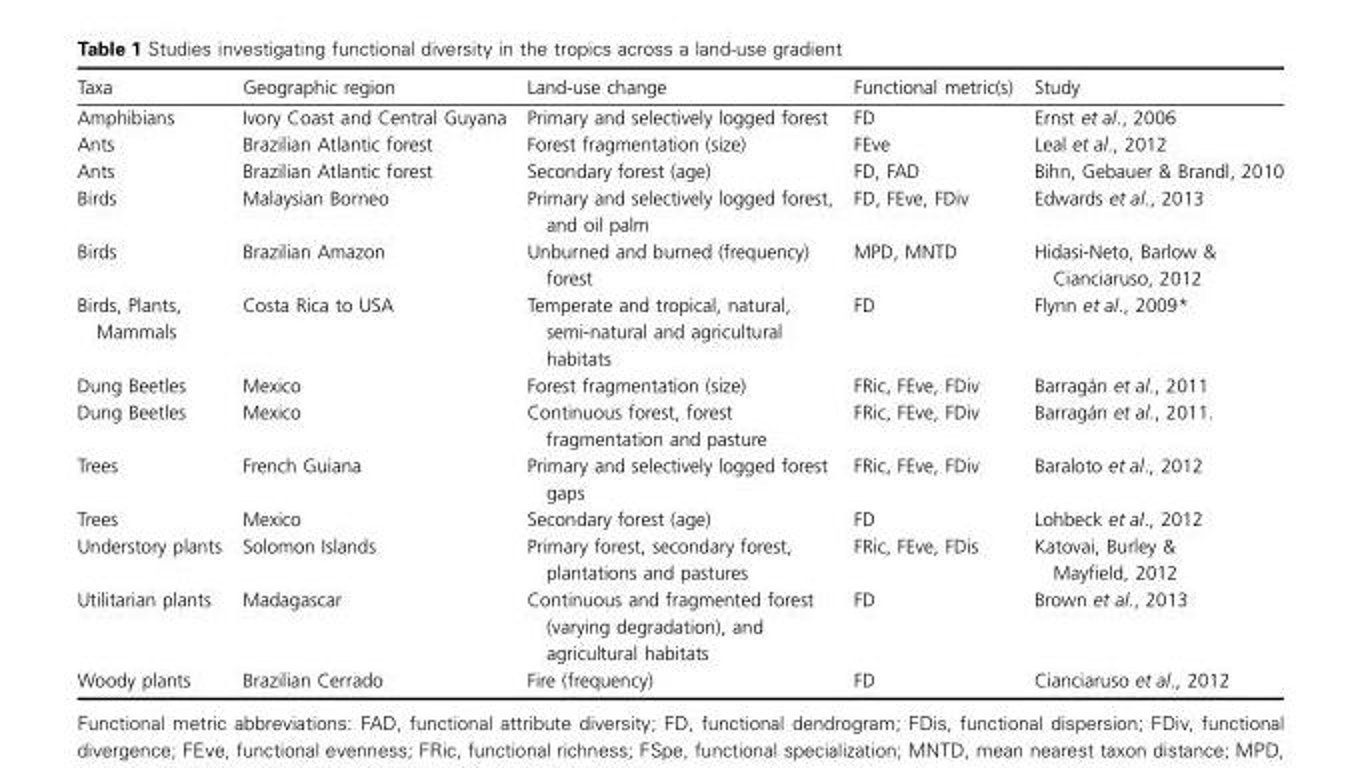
<table><thead><tr><td>Taxa</td><td>Geographic region</td><td>Land-use change</td><td>Functional metric(s)</td><td>Study</td></tr></thead><tbody><tr><td>Amphibians</td><td>Ivory Coast and Central Guyana</td><td>Primary and selectively logged forest</td><td>FD</td><td>Ernst et al., 2006</td></tr><tr><td>Ants</td><td>Brazilian Atlantic forest</td><td>Forest fragmentation (size)</td><td>FEve</td><td>Leal et al., 2012</td></tr><tr><td>Ants</td><td>Brazilian Atlantic forest</td><td>Secondary forest (age)</td><td>FD, FAD</td><td>Bihn, Gebauer &amp; Brandl, 2010</td></tr><tr><td>Birds</td><td>Malaysian Borneo</td><td>Primary and selectively logged forest, and oil palm</td><td>FD, FEve, FDiv</td><td>Edwards et al., 2013</td></tr><tr><td>Birds</td><td>Brazilian Amazon</td><td>Unburned and burned (frequency) forest</td><td>MPD, MNTD</td><td>Hidasi-Neto, Barlow &amp; Cianciaruso, 2012</td></tr><tr><td>Birds, Plants, Mammals</td><td>Costa Rica to USA</td><td>Temperate and tropical, natural, semi-natural and agricultural habitats</td><td>FD</td><td>Flynn et al., 2009*</td></tr><tr><td>Dung Beetles</td><td>Mexico</td><td>Forest fragmentation (size)</td><td>FRic, FEve, FDiv</td><td>Barragán et al., 2011</td></tr><tr><td>Dung Beetles</td><td>Mexico</td><td>Continuous forest, forest fragmentation and pasture</td><td>FRic, FEve, FDiv</td><td>Barragán et al., 2011.</td></tr><tr><td>Trees</td><td>French Guiana</td><td>Primary and selectively logged forest gaps</td><td>FRic, FEve, FDiv</td><td>Baraloto et al., 2012</td></tr><tr><td>Trees</td><td>Mexico</td><td>Secondary forest (age)</td><td>FD</td><td>Lohbeck et al., 2012</td></tr><tr><td>Understory plants</td><td>Solomon Islands</td><td>Primary forest, secondary forest, plantations and pastures</td><td>FRic, FEve, FDis</td><td>Katovai, Burley &amp; Mayfield, 2012</td></tr><tr><td>Utilitarian plants</td><td>Madagascar</td><td>Continuous and fragmented forest (varying degradation), and agricultural habitats</td><td>FD</td><td>Brown et al., 2013</td></tr><tr><td>Woody plants</td><td>Brazilian Cerrado</td><td>Fire (frequency)</td><td>FD</td><td>Cianciaruso et al., 2012</td></tr></tbody></table>